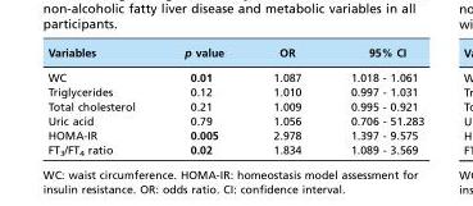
<table><thead><tr><td>Variables</td><td>p value</td><td>OR</td><td>95% CI</td></tr></thead><tbody><tr><td>WC</td><td>0.01</td><td>1.087</td><td>1.018 - 1.061</td></tr><tr><td>Triglycerides</td><td>0.12</td><td>1.010</td><td>0.997 - 1.031</td></tr><tr><td>Total cholesterol</td><td>0.21</td><td>1.009</td><td>0.995 - 0.921</td></tr><tr><td>Uric acid</td><td>0.79</td><td>1.056</td><td>0.706 - 51.283</td></tr><tr><td>HOMA-IR</td><td>0.005</td><td>2.978</td><td>1.397 - 9.575</td></tr><tr><td>FT<sub>3</sub>/FT<sub>4</sub> ratio</td><td>0.02</td><td>1.834</td><td>1.089 - 3.569</td></tr></tbody></table>